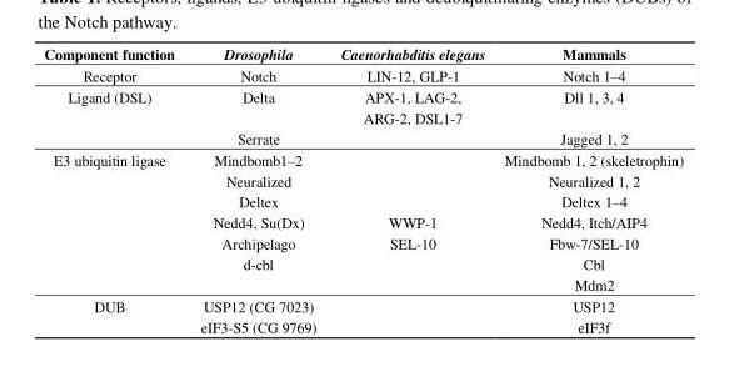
<table><thead><tr><td>Component function</td><td>Drosophila</td><td>Caenorhabditis elegans</td><td>Mammals</td></tr></thead><tbody><tr><td>Receptor</td><td>Notch</td><td>LIN-12, GLP-1</td><td>Notch 1–4</td></tr><tr><td rowspan="2">Ligand (DSL)</td><td>Delta</td><td>APX-1, LAG-2, ARG-2, DSL1-7</td><td>Dll 1, 3, 4</td></tr><tr><td>Serrate</td><td></td><td>Jagged 1, 2</td></tr><tr><td rowspan="7">E3 ubiquitin ligase</td><td>Mindbomb1–2</td><td></td><td>Mindbomb 1, 2 (skeletrophin)</td></tr><tr><td>Neuralized</td><td></td><td>Neuralized 1, 2</td></tr><tr><td>Deltex</td><td></td><td>Deltex 1–4</td></tr><tr><td>Nedd4, Su(Dx)</td><td>WWP-1</td><td>Nedd4, Itch/AIP4</td></tr><tr><td>Archipelago</td><td>SEL-10</td><td>Fbw-7/SEL-10</td></tr><tr><td>d-cbl</td><td></td><td>Cbl</td></tr><tr><td></td><td></td><td>Mdm2</td></tr><tr><td rowspan="2">DUB</td><td>USP12 (CG 7023)</td><td></td><td>USP12</td></tr><tr><td>eIF3-S5 (CG 9769)</td><td></td><td>eIF3f</td></tr></tbody></table>